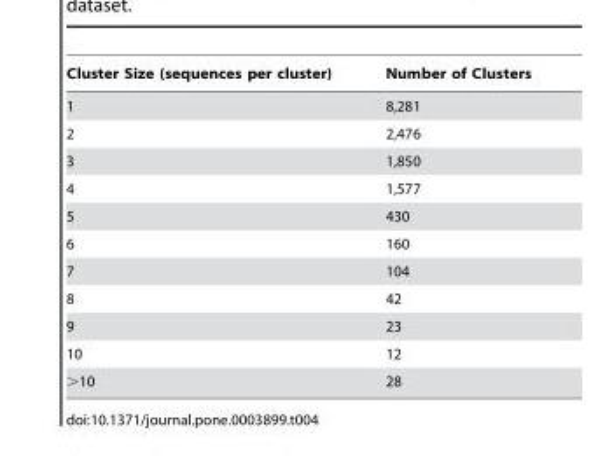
<table><thead><tr><td>Cluster Size (sequences per cluster)</td><td>Number of Clusters</td></tr></thead><tbody><tr><td>1</td><td>8,281</td></tr><tr><td>2</td><td>2,476</td></tr><tr><td>3</td><td>1,850</td></tr><tr><td>4</td><td>1,577</td></tr><tr><td>5</td><td>430</td></tr><tr><td>6</td><td>160</td></tr><tr><td>7</td><td>104</td></tr><tr><td>8</td><td>42</td></tr><tr><td>9</td><td>23</td></tr><tr><td>10</td><td>12</td></tr><tr><td>&gt;10</td><td>28</td></tr></tbody></table>